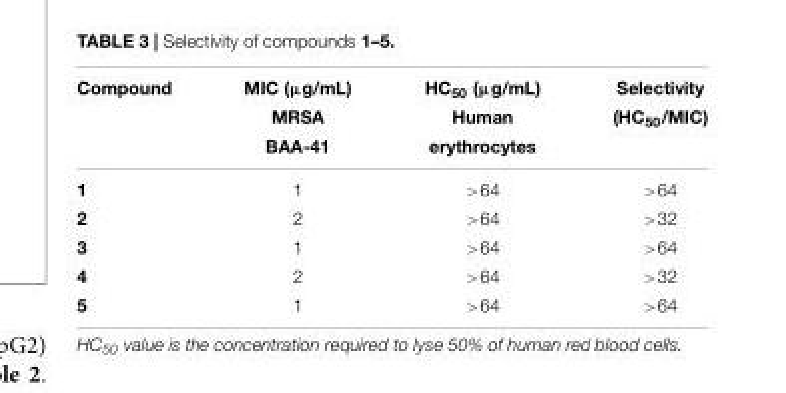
<table><thead><tr><td rowspan="3">Compound</td><td rowspan="3">MIC (µg/mL) MRSA BAA-41</td><td rowspan="3">HC<sub>50</sub> (µg/mL) Human erythrocytes</td><td rowspan="3">Selectivity (HC<sub>50</sub>/MIC)</td></tr><tr></tr><tr></tr></thead><tbody><tr><td>1</td><td>1</td><td>&gt;64</td><td>&gt;64</td></tr><tr><td>2</td><td>2</td><td>&gt;64</td><td>&gt;32</td></tr><tr><td>3</td><td>1</td><td>&gt;64</td><td>&gt;64</td></tr><tr><td>4</td><td>2</td><td>&gt;64</td><td>&gt;32</td></tr><tr><td>5</td><td>1</td><td>&gt;64</td><td>&gt;64</td></tr></tbody></table>